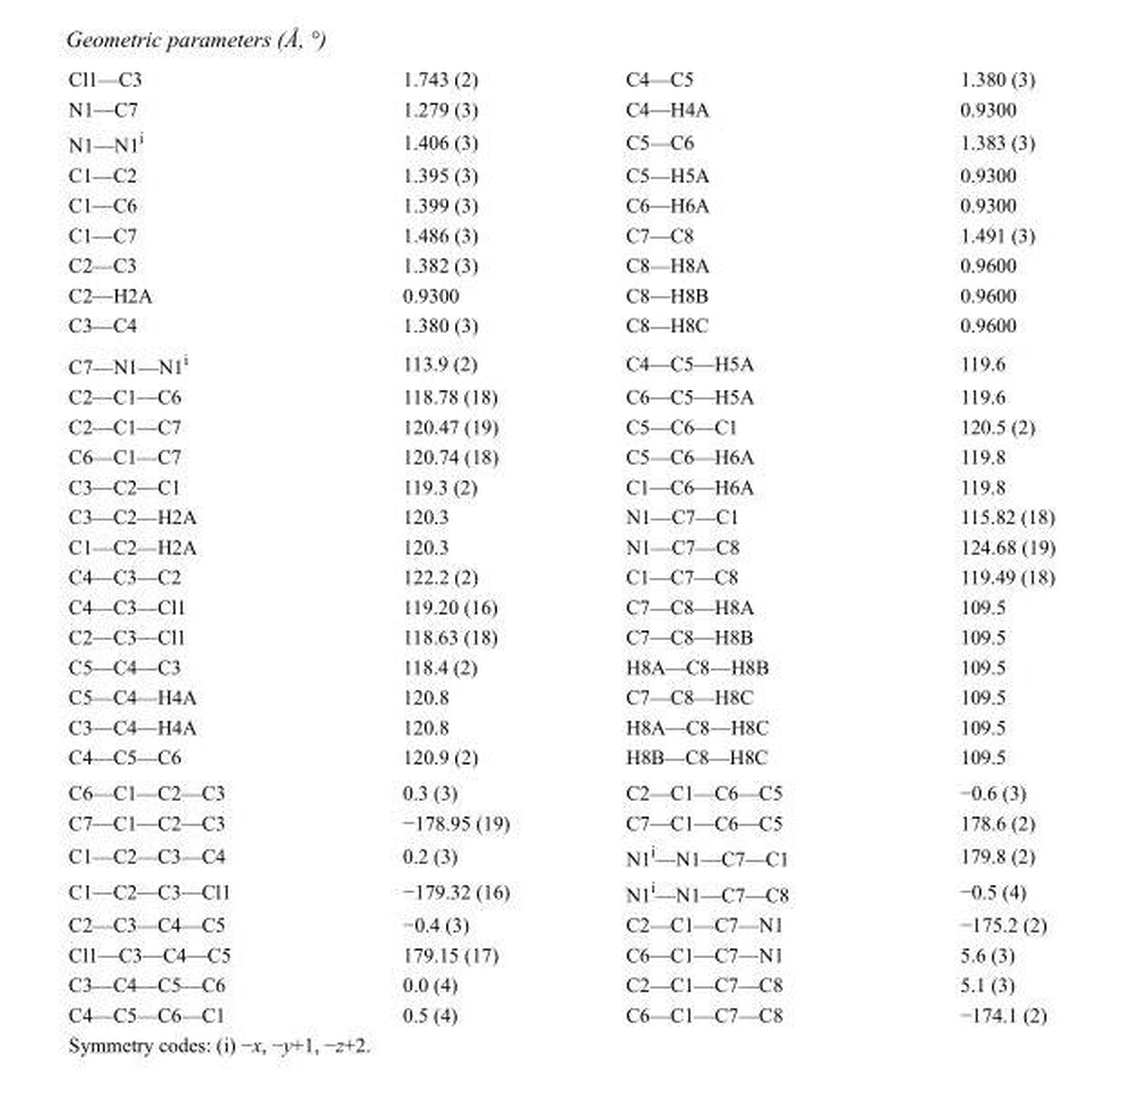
<table><tbody><tr><td>Cl1—C3</td><td>1.743 (2)</td><td>C4—C5</td><td>1.380 (3)</td></tr><tr><td>N1—C7</td><td>1.279 (3)</td><td>C4—H4A</td><td>0.9300</td></tr><tr><td>N1—N1<sup>i</sup></td><td>1.406 (3)</td><td>C5—C6</td><td>1.383 (3)</td></tr><tr><td>C1—C2</td><td>1.395 (3)</td><td>C5—H5A</td><td>0.9300</td></tr><tr><td>C1—C6</td><td>1.399 (3)</td><td>C6—H6A</td><td>0.9300</td></tr><tr><td>C1—C7</td><td>1.486 (3)</td><td>C7—C8</td><td>1.491 (3)</td></tr><tr><td>C2—C3</td><td>1.382 (3)</td><td>C8—H8A</td><td>0.9600</td></tr><tr><td>C2—H2A</td><td>0.9300</td><td>C8—H8B</td><td>0.9600</td></tr><tr><td>C3—C4</td><td>1.380 (3)</td><td>C8—H8C</td><td>0.9600</td></tr><tr><td>C7—N1—N1<sup>i</sup></td><td>113.9 (2)</td><td>C4—C5—H5A</td><td>119.6</td></tr><tr><td>C2—C1—C6</td><td>118.78 (18)</td><td>C6—C5—H5A</td><td>119.6</td></tr><tr><td>C2—C1—C7</td><td>120.47 (19)</td><td>C5—C6—C1</td><td>120.5 (2)</td></tr><tr><td>C6—C1—C7</td><td>120.74 (18)</td><td>C5—C6—H6A</td><td>119.8</td></tr><tr><td>C3—C2—C1</td><td>119.3 (2)</td><td>C1—C6—H6A</td><td>119.8</td></tr><tr><td>C3—C2—H2A</td><td>120.3</td><td>N1—C7—C1</td><td>115.82 (18)</td></tr><tr><td>C1—C2—H2A</td><td>120.3</td><td>N1—C7—C8</td><td>124.68 (19)</td></tr><tr><td>C4—C3—C2</td><td>122.2 (2)</td><td>C1—C7—C8</td><td>119.49 (18)</td></tr><tr><td>C4—C3—Cl1</td><td>119.20 (16)</td><td>C7—C8—H8A</td><td>109.5</td></tr><tr><td>C2—C3—Cl1</td><td>118.63 (18)</td><td>C7—C8—H8B</td><td>109.5</td></tr><tr><td>C5—C4—C3</td><td>118.4 (2)</td><td>H8A—C8—H8B</td><td>109.5</td></tr><tr><td>C5—C4—H4A</td><td>120.8</td><td>C7—C8—H8C</td><td>109.5</td></tr><tr><td>C3—C4—H4A</td><td>120.8</td><td>H8A—C8—H8C</td><td>109.5</td></tr><tr><td>C4—C5—C6</td><td>120.9 (2)</td><td>H8B—C8—H8C</td><td>109.5</td></tr><tr><td>C6—C1—C2—C3</td><td>0.3 (3)</td><td>C2—C1—C6—C5</td><td>−0.6 (3)</td></tr><tr><td>C7—C1—C2—C3</td><td>−178.95 (19)</td><td>C7—C1—C6—C5</td><td>178.6 (2)</td></tr><tr><td>C1—C2—C3—C4</td><td>0.2 (3)</td><td>N1<sup>i</sup>—N1—C7—C1</td><td>179.8 (2)</td></tr><tr><td>C1—C2—C3—Cl1</td><td>−179.32 (16)</td><td>N1<sup>i</sup>—N1—C7—C8</td><td>−0.5 (4)</td></tr><tr><td>C2—C3—C4—C5</td><td>−0.4 (3)</td><td>C2—C1—C7—N1</td><td>−175.2 (2)</td></tr><tr><td>Cl1—C3—C4—C5</td><td>179.15 (17)</td><td>C6—C1—C7—N1</td><td>5.6 (3)</td></tr><tr><td>C3—C4—C5—C6</td><td>0.0 (4)</td><td>C2—C1—C7—C8</td><td>5.1 (3)</td></tr><tr><td>C4—C5—C6—C1</td><td>0.5 (4)</td><td>C6—C1—C7—C8</td><td>−174.1 (2)</td></tr></tbody></table>